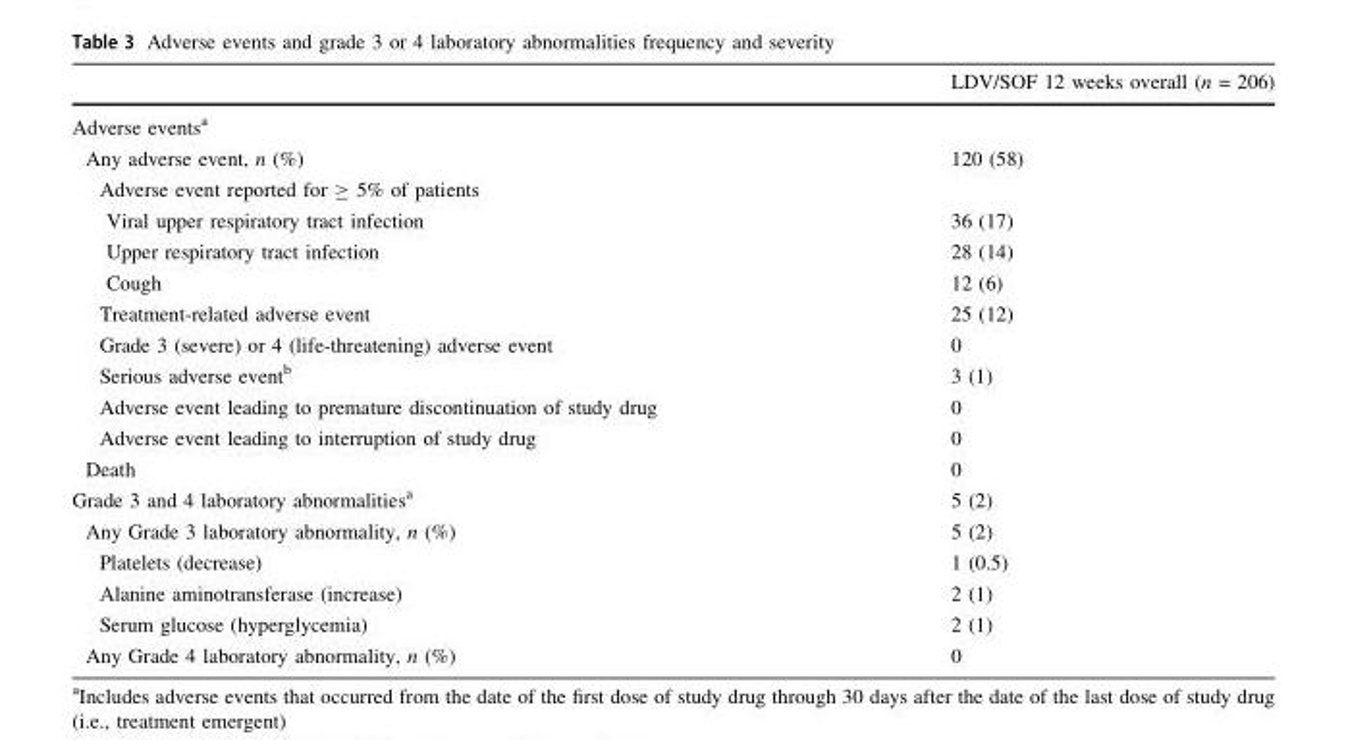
<table><thead><tr><td></td><td>LDV/SOF 12 weeks overall (n = 206)</td></tr></thead><tbody><tr><td colspan="2">Adverse events<sup>a</sup></td></tr><tr><td>Any adverse event, n (%)</td><td>120 (58)</td></tr><tr><td colspan="2">Adverse event reported for ≥ 5% of patients</td></tr><tr><td>Viral upper respiratory tract infection</td><td>36 (17)</td></tr><tr><td>Upper respiratory tract infection</td><td>28 (14)</td></tr><tr><td>Cough</td><td>12 (6)</td></tr><tr><td>Treatment-related adverse event</td><td>25 (12)</td></tr><tr><td>Grade 3 (severe) or 4 (life-threatening) adverse event</td><td>0</td></tr><tr><td>Serious adverse event<sup>b</sup></td><td>3 (1)</td></tr><tr><td>Adverse event leading to premature discontinuation of study drug</td><td>0</td></tr><tr><td>Adverse event leading to interruption of study drug</td><td>0</td></tr><tr><td>Death</td><td>0</td></tr><tr><td>Grade 3 and 4 laboratory abnormalities<sup>a</sup></td><td>5 (2)</td></tr><tr><td>Any Grade 3 laboratory abnormality, n (%)</td><td>5 (2)</td></tr><tr><td>Platelets (decrease)</td><td>1 (0.5)</td></tr><tr><td>Alanine aminotransferase (increase)</td><td>2 (1)</td></tr><tr><td>Serum glucose (hyperglycemia)</td><td>2 (1)</td></tr><tr><td>Any Grade 4 laboratory abnormality, n (%)</td><td>0</td></tr></tbody></table>